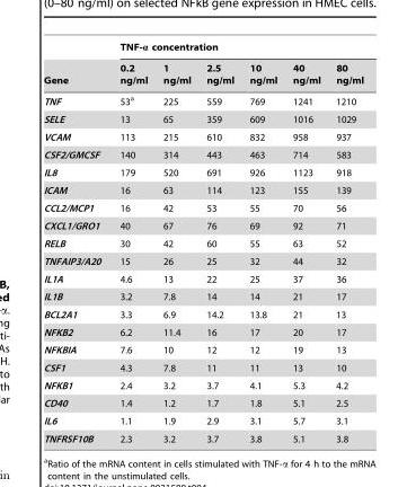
<table><thead><tr><td rowspan="2">Gene</td><td colspan="6">TNF-α concentration</td></tr><tr><td>0.2 ng/ml</td><td>1 ng/ml</td><td>2.5 ng/ml</td><td>10 ng/ml</td><td>40 ng/ml</td><td>80 ng/ml</td></tr></thead><tbody><tr><td>TNF</td><td>53<sup>a</sup></td><td>225</td><td>559</td><td>769</td><td>1241</td><td>1210</td></tr><tr><td>SELE</td><td>13</td><td>65</td><td>359</td><td>609</td><td>1016</td><td>1029</td></tr><tr><td>VCAM</td><td>113</td><td>215</td><td>610</td><td>832</td><td>958</td><td>937</td></tr><tr><td>CSF2/GMCSF</td><td>140</td><td>314</td><td>443</td><td>463</td><td>714</td><td>583</td></tr><tr><td>IL8</td><td>179</td><td>520</td><td>691</td><td>926</td><td>1123</td><td>918</td></tr><tr><td>ICAM</td><td>16</td><td>63</td><td>114</td><td>123</td><td>155</td><td>139</td></tr><tr><td>CCL2/MCP1</td><td>16</td><td>42</td><td>53</td><td>55</td><td>70</td><td>56</td></tr><tr><td>CXCL1/GRO1</td><td>40</td><td>67</td><td>76</td><td>69</td><td>92</td><td>71</td></tr><tr><td>RELB</td><td>30</td><td>42</td><td>60</td><td>55</td><td>63</td><td>52</td></tr><tr><td>TNFAIP3/A20</td><td>15</td><td>26</td><td>25</td><td>32</td><td>44</td><td>32</td></tr><tr><td>IL1A</td><td>4.6</td><td>13</td><td>22</td><td>25</td><td>37</td><td>36</td></tr><tr><td>IL1B</td><td>3.2</td><td>7.8</td><td>14</td><td>14</td><td>21</td><td>17</td></tr><tr><td>BCL2A1</td><td>3.3</td><td>6.9</td><td>14.2</td><td>13.8</td><td>21</td><td>13</td></tr><tr><td>NFKB2</td><td>6.2</td><td>11.4</td><td>16</td><td>17</td><td>20</td><td>17</td></tr><tr><td>NFKBIA</td><td>7.6</td><td>10</td><td>12</td><td>12</td><td>19</td><td>13</td></tr><tr><td>CSF1</td><td>4.3</td><td>7.8</td><td>11</td><td>11</td><td>13</td><td>10</td></tr><tr><td>NFKB1</td><td>2.4</td><td>3.2</td><td>3.7</td><td>4.1</td><td>5.3</td><td>4.2</td></tr><tr><td>CD40</td><td>1.4</td><td>1.2</td><td>1.7</td><td>1.8</td><td>5.1</td><td>2.5</td></tr><tr><td>IL6</td><td>1.1</td><td>1.9</td><td>2.9</td><td>3.1</td><td>5.7</td><td>3.1</td></tr><tr><td>TNFRSF10B</td><td>2.3</td><td>3.2</td><td>3.7</td><td>3.8</td><td>5.1</td><td>3.8</td></tr></tbody></table>